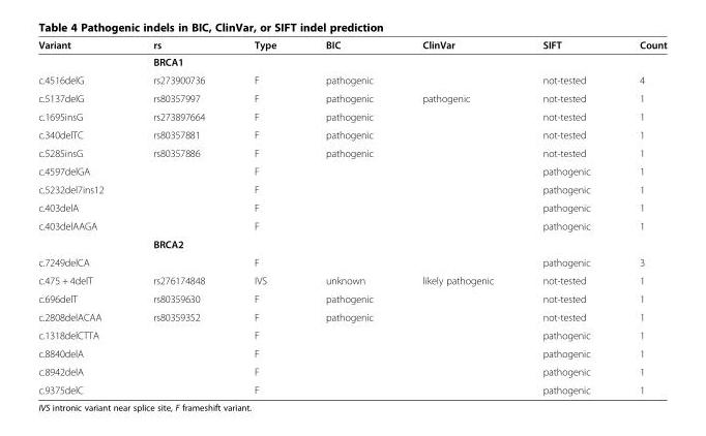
<table><thead><tr><td>Variant</td><td>rs</td><td>Type</td><td>BIC</td><td>ClinVar</td><td>SIFT</td><td>Count</td></tr></thead><tbody><tr><td></td><td colspan="6">BRCA1</td></tr><tr><td>c.4516delG</td><td>rs273900736</td><td>F</td><td>pathogenic</td><td></td><td>not-tested</td><td>4</td></tr><tr><td>c.5137delG</td><td>rs80357997</td><td>F</td><td>pathogenic</td><td>pathogenic</td><td>not-tested</td><td>1</td></tr><tr><td>c.1695insG</td><td>rs273897664</td><td>F</td><td>pathogenic</td><td></td><td>not-tested</td><td>1</td></tr><tr><td>c.340delTC</td><td>rs80357881</td><td>F</td><td>pathogenic</td><td></td><td>not-tested</td><td>1</td></tr><tr><td>c.5285insG</td><td>rs80357886</td><td>F</td><td>pathogenic</td><td></td><td>not-tested</td><td>1</td></tr><tr><td>c.4597delGA</td><td></td><td>F</td><td colspan="2"></td><td>pathogenic</td><td>1</td></tr><tr><td>c.5232del7ins12</td><td></td><td>F</td><td colspan="2"></td><td>pathogenic</td><td>1</td></tr><tr><td>c.403delA</td><td></td><td>F</td><td colspan="2"></td><td>pathogenic</td><td>1</td></tr><tr><td rowspan="2">c.403delAAGA</td><td></td><td>F</td><td colspan="2"></td><td>pathogenic</td><td>1</td></tr><tr><td colspan="6">BRCA2</td></tr><tr><td>c.7249delCA</td><td></td><td>F</td><td colspan="2"></td><td>pathogenic</td><td>3</td></tr><tr><td>c.475 + 4delT</td><td>rs276174848</td><td>IVS</td><td>unknown</td><td>likely pathogenic</td><td>not-tested</td><td>1</td></tr><tr><td>c.696delT</td><td>rs80359630</td><td>F</td><td>pathogenic</td><td></td><td>not-tested</td><td>1</td></tr><tr><td>c.2808delACAA</td><td>rs80359352</td><td>F</td><td>pathogenic</td><td></td><td>not-tested</td><td>1</td></tr><tr><td>c.1318delCTTA</td><td></td><td>F</td><td colspan="2"></td><td>pathogenic</td><td>1</td></tr><tr><td>c.8840delA</td><td></td><td>F</td><td colspan="2"></td><td>pathogenic</td><td>1</td></tr><tr><td>c.8942delA</td><td></td><td>F</td><td colspan="2"></td><td>pathogenic</td><td>1</td></tr><tr><td>c.9375delC</td><td></td><td>F</td><td colspan="2"></td><td>pathogenic</td><td>1</td></tr></tbody></table>